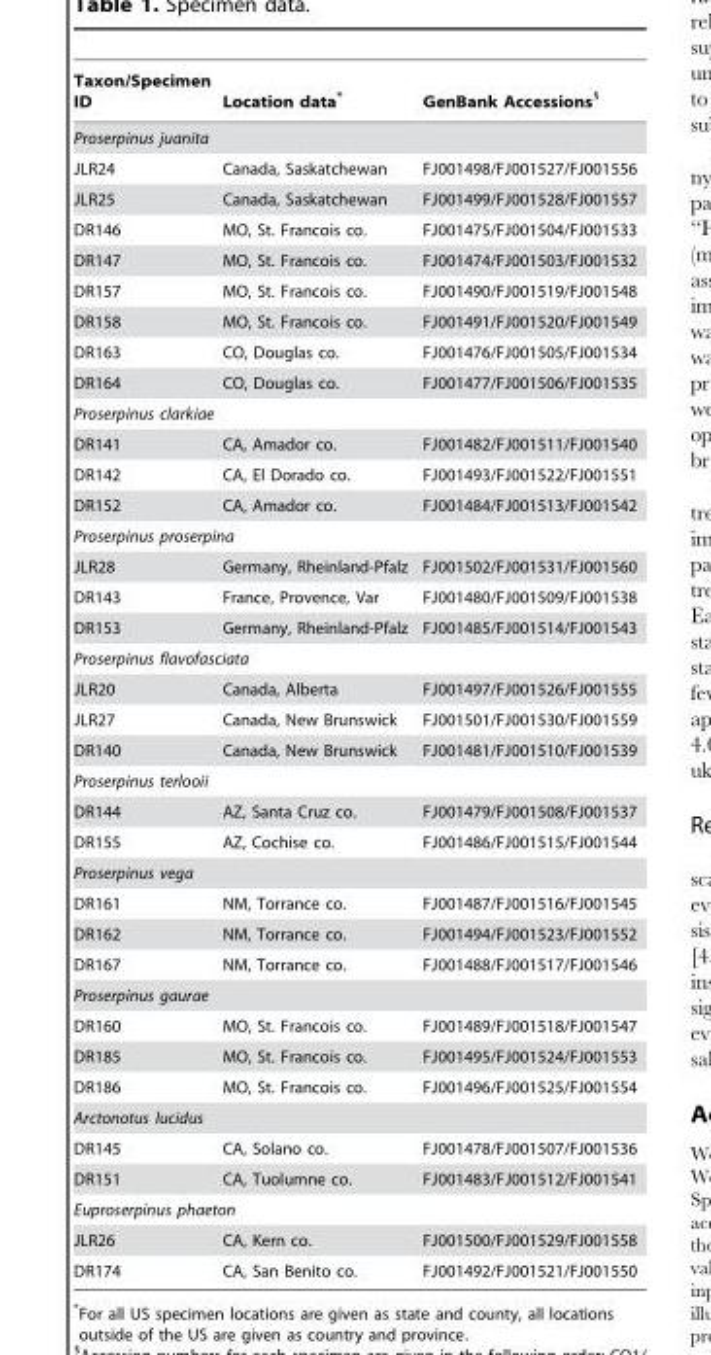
<table><thead><tr><td>Taxon/Specimen ID</td><td>Location data*</td><td>GenBank Accessions§</td></tr></thead><tbody><tr><td colspan="3">Proserpinus juanita</td></tr><tr><td>JLR24</td><td>Canada, Saskatchewan</td><td>FJ001498/FJ001527/FJ001556</td></tr><tr><td>JLR25</td><td>Canada, Saskatchewan</td><td>FJ001499/FJ001528/FJ001557</td></tr><tr><td>DR146</td><td>MO, St. Francois co.</td><td>FJ001475/FJ001504/FJ001533</td></tr><tr><td>DR147</td><td>MO, St. Francois co.</td><td>FJ001474/FJ001503/FJ001532</td></tr><tr><td>DR157</td><td>MO, St. Francois co.</td><td>FJ001490/FJ001519/FJ001548</td></tr><tr><td>DR158</td><td>MO, St. Francois co.</td><td>FJ001491/FJ001520/FJ001549</td></tr><tr><td>DR163</td><td>CO, Douglas co.</td><td>FJ001476/FJ001505/FJ001534</td></tr><tr><td>DR164</td><td>CO, Douglas co.</td><td>FJ001477/FJ001506/FJ001535</td></tr><tr><td colspan="3">Proserpinus clarkiae</td></tr><tr><td>DR141</td><td>CA, Amador co.</td><td>FJ001482/FJ001511/FJ001540</td></tr><tr><td>DR142</td><td>CA, El Dorado co.</td><td>FJ001493/FJ001522/FJ001551</td></tr><tr><td>DR152</td><td>CA, Amador co.</td><td>FJ001484/FJ001513/FJ001542</td></tr><tr><td colspan="3">Proserpinus proserpina</td></tr><tr><td>JLR28</td><td>Germany, Rheinland-Pfalz</td><td>FJ001502/FJ001531/FJ001560</td></tr><tr><td>DR143</td><td>France, Provence, Var</td><td>FJ001480/FJ001509/FJ001538</td></tr><tr><td>DR153</td><td>Germany, Rheinland-Pfalz</td><td>FJ001485/FJ001514/FJ001543</td></tr><tr><td colspan="3">Proserpinus flavofasciata</td></tr><tr><td>JLR20</td><td>Canada, Alberta</td><td>FJ001497/FJ001526/FJ001555</td></tr><tr><td>JLR27</td><td>Canada, New Brunswick</td><td>FJ001501/FJ001530/FJ001559</td></tr><tr><td>DR140</td><td>Canada, New Brunswick</td><td>FJ001481/FJ001510/FJ001539</td></tr><tr><td colspan="3">Proserpinus terlooii</td></tr><tr><td>DR144</td><td>AZ, Santa Cruz co.</td><td>FJ001479/FJ001508/FJ001537</td></tr><tr><td>DR155</td><td>AZ, Cochise co.</td><td>FJ001486/FJ001515/FJ001544</td></tr><tr><td colspan="3">Proserpinus vega</td></tr><tr><td>DR161</td><td>NM, Torrance co.</td><td>FJ001487/FJ001516/FJ001545</td></tr><tr><td>DR162</td><td>NM, Torrance co.</td><td>FJ001494/FJ001523/FJ001552</td></tr><tr><td>DR167</td><td>NM, Torrance co.</td><td>FJ001488/FJ001517/FJ001546</td></tr><tr><td colspan="3">Proserpinus gaurae</td></tr><tr><td>DR160</td><td>MO, St. Francois co.</td><td>FJ001489/FJ001518/FJ001547</td></tr><tr><td>DR185</td><td>MO, St. Francois co.</td><td>FJ001495/FJ001524/FJ001553</td></tr><tr><td>DR186</td><td>MO, St. Francois co.</td><td>FJ001496/FJ001525/FJ001554</td></tr><tr><td colspan="3">Arctonotus lucidus</td></tr><tr><td>DR145</td><td>CA, Solano co.</td><td>FJ001478/FJ001507/FJ001536</td></tr><tr><td>DR151</td><td>CA, Tuolumne co.</td><td>FJ001483/FJ001512/FJ001541</td></tr><tr><td colspan="3">Euproserpinus phaeton</td></tr><tr><td>JLR26</td><td>CA, Kern co.</td><td>FJ001500/FJ001529/FJ001558</td></tr><tr><td>DR174</td><td>CA, San Benito co.</td><td>FJ001492/FJ001521/FJ001550</td></tr></tbody></table>